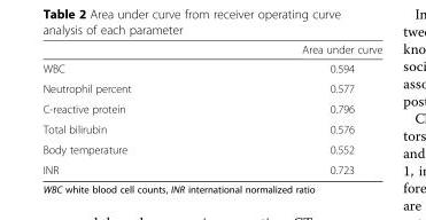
<table><thead><tr><td></td><td>Area under curve</td></tr></thead><tbody><tr><td>WBC</td><td>0.594</td></tr><tr><td>Neutrophil percent</td><td>0.577</td></tr><tr><td>C-reactive protein</td><td>0.796</td></tr><tr><td>Total bilirubin</td><td>0.576</td></tr><tr><td>Body temperature</td><td>0.552</td></tr><tr><td>INR</td><td>0.723</td></tr></tbody></table>